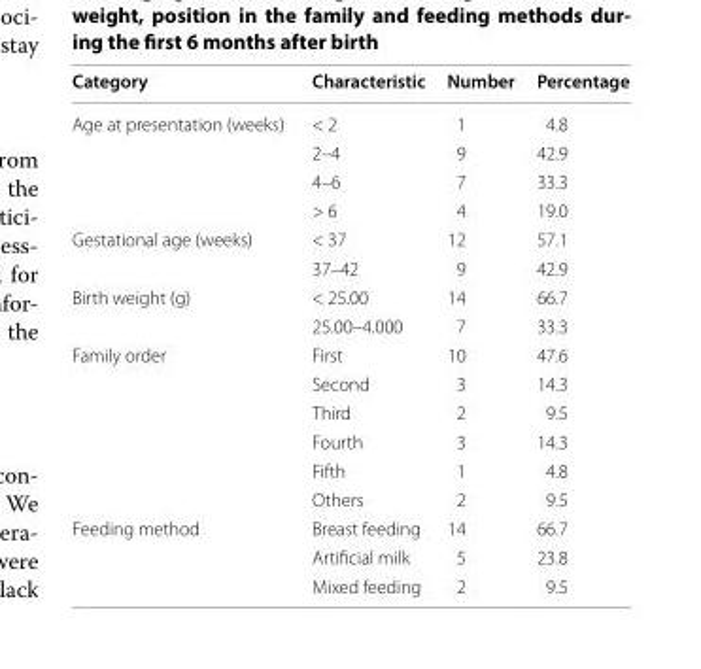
<table><thead><tr><td>Category</td><td>Characteristic</td><td>Number</td><td>Percentage</td></tr></thead><tbody><tr><td rowspan="4">Age at presentation (weeks)</td><td>&lt; 2</td><td>1</td><td>4.8</td></tr><tr><td>2–4</td><td>9</td><td>42.9</td></tr><tr><td>4–6</td><td>7</td><td>33.3</td></tr><tr><td>&gt; 6</td><td>4</td><td>19.0</td></tr><tr><td rowspan="2">Gestational age (weeks)</td><td>&lt; 37</td><td>12</td><td>57.1</td></tr><tr><td>37–42</td><td>9</td><td>42.9</td></tr><tr><td rowspan="2">Birth weight (g)</td><td>&lt; 25.00</td><td>14</td><td>66.7</td></tr><tr><td>25.00–4.000</td><td>7</td><td>33.3</td></tr><tr><td rowspan="6">Family order</td><td>First</td><td>10</td><td>47.6</td></tr><tr><td>Second</td><td>3</td><td>14.3</td></tr><tr><td>Third</td><td>2</td><td>9.5</td></tr><tr><td>Fourth</td><td>3</td><td>14.3</td></tr><tr><td>Fifth</td><td>1</td><td>4.8</td></tr><tr><td>Others</td><td>2</td><td>9.5</td></tr><tr><td rowspan="3">Feeding method</td><td>Breast feeding</td><td>14</td><td>66.7</td></tr><tr><td>Artificial milk</td><td>5</td><td>23.8</td></tr><tr><td>Mixed feeding</td><td>2</td><td>9.5</td></tr></tbody></table>